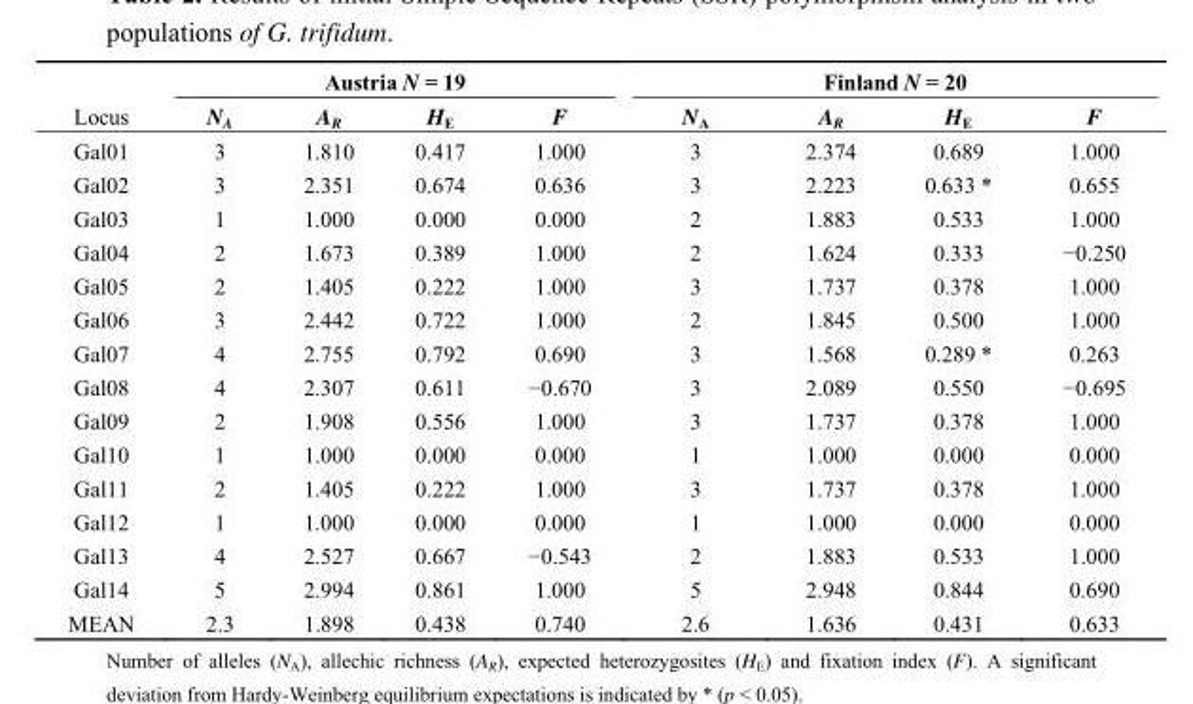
<table><thead><tr><td rowspan="2">Locus</td><td colspan="4">Austria N = 19</td><td colspan="4">Finland N = 20</td></tr><tr><td>NA</td><td>A<sub>R</sub></td><td>H<sub>E</sub></td><td>F</td><td>N<sub>A</sub></td><td>A<sub>R</sub></td><td>H<sub>E</sub></td><td>F</td></tr></thead><tbody><tr><td>Gal01</td><td>3</td><td>1.810</td><td>0.417</td><td>1.000</td><td>3</td><td>2.374</td><td>0.689</td><td>1.000</td></tr><tr><td>Gal02</td><td>3</td><td>2.351</td><td>0.674</td><td>0.636</td><td>3</td><td>2.223</td><td>0.633 *</td><td>0.655</td></tr><tr><td>Gal03</td><td>1</td><td>1.000</td><td>0.000</td><td>0.000</td><td>2</td><td>1.883</td><td>0.533</td><td>1.000</td></tr><tr><td>Gal04</td><td>2</td><td>1.673</td><td>0.389</td><td>1.000</td><td>2</td><td>1.624</td><td>0.333</td><td>−0.250</td></tr><tr><td>Gal05</td><td>2</td><td>1.405</td><td>0.222</td><td>1.000</td><td>3</td><td>1.737</td><td>0.378</td><td>1.000</td></tr><tr><td>Gal06</td><td>3</td><td>2.442</td><td>0.722</td><td>1.000</td><td>2</td><td>1.845</td><td>0.500</td><td>1.000</td></tr><tr><td>Gal07</td><td>4</td><td>2.755</td><td>0.792</td><td>0.690</td><td>3</td><td>1.568</td><td>0.289 *</td><td>0.263</td></tr><tr><td>Gal08</td><td>4</td><td>2.307</td><td>0.611</td><td>−0.670</td><td>3</td><td>2.089</td><td>0.550</td><td>−0.695</td></tr><tr><td>Gal09</td><td>2</td><td>1.908</td><td>0.556</td><td>1.000</td><td>3</td><td>1.737</td><td>0.378</td><td>1.000</td></tr><tr><td>Gal10</td><td>1</td><td>1.000</td><td>0.000</td><td>0.000</td><td>1</td><td>1.000</td><td>0.000</td><td>0.000</td></tr><tr><td>Gal11</td><td>2</td><td>1.405</td><td>0.222</td><td>1.000</td><td>3</td><td>1.737</td><td>0.378</td><td>1.000</td></tr><tr><td>Gal12</td><td>1</td><td>1.000</td><td>0.000</td><td>0.000</td><td>1</td><td>1.000</td><td>0.000</td><td>0.000</td></tr><tr><td>Gal13</td><td>4</td><td>2.527</td><td>0.667</td><td>−0.543</td><td>2</td><td>1.883</td><td>0.533</td><td>1.000</td></tr><tr><td>Gal14</td><td>5</td><td>2.994</td><td>0.861</td><td>1.000</td><td>5</td><td>2.948</td><td>0.844</td><td>0.690</td></tr><tr><td>MEAN</td><td>2.3</td><td>1.898</td><td>0.438</td><td>0.740</td><td>2.6</td><td>1.636</td><td>0.431</td><td>0.633</td></tr></tbody></table>